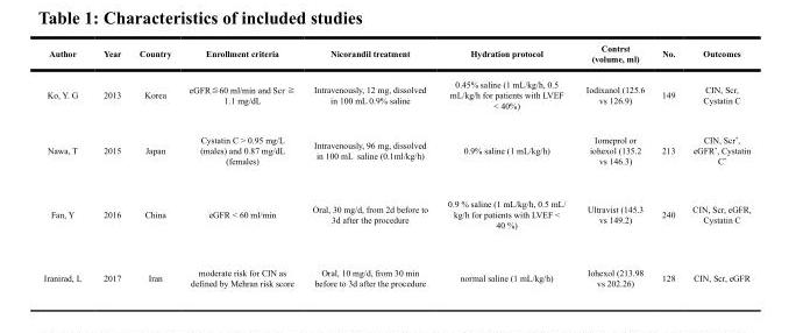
<table><thead><tr><td>Author</td><td>Year</td><td>Country</td><td>Enrollment criteria</td><td>Nicorandil treatment</td><td>Hydration protocol</td><td>Contrst (volume, ml)</td><td>No.</td><td>Outcomes</td></tr></thead><tbody><tr><td>Ko, Y. G</td><td>2013</td><td>Korea</td><td>eGFR≦60 ml/min and Scr ≧ 1.1 mg/dL</td><td>Intravenously, 12 mg, dissolved in 100 mL 0.9% saline</td><td>0.45% saline (1 mL/kg/h, 0.5 mL/kg/h for patients with LVEF &lt; 40%)</td><td>Iodixanol (125.6 vs 126.9)</td><td>149</td><td>CIN, Scr, Cystatin C</td></tr><tr><td>Nawa, T</td><td>2015</td><td>Japan</td><td>Cystatin C &gt; 0.95 mg/L (males) and 0.87 mg/dL (females)</td><td>Intravenously, 96 mg, dissolved in 100 mL saline (0.1ml/kg/h)</td><td>0.9% saline (1 mL/kg/h)</td><td>Iomeprol or iohexol (135.2 vs 146.3)</td><td>213</td><td>CIN, Scr*, eGFR*, Cystatin C*</td></tr><tr><td>Fan, Y</td><td>2016</td><td>China</td><td>eGFR &lt; 60 ml/min</td><td>Oral, 30 mg/d, from 2d before to 3d after the procedure</td><td>0.9 % saline (1 mL/kg/h, 0.5 mL/ kg/h for patients with LVEF &lt; 40 %)</td><td>Ultravist (145.3 vs 149.2)</td><td>240</td><td>CIN, Scr, eGFR, Cystatin C</td></tr><tr><td>Iranirad, L</td><td>2017</td><td>Iran</td><td>moderate risk for CIN as defined by Mehran risk score</td><td>Oral, 10 mg/d, from 30 min before to 3d after the procedure</td><td>normal saline (1 mL/kg/h)</td><td>Iohexol (213.98 vs 202.26)</td><td>128</td><td>CIN, Scr, eGFR</td></tr></tbody></table>